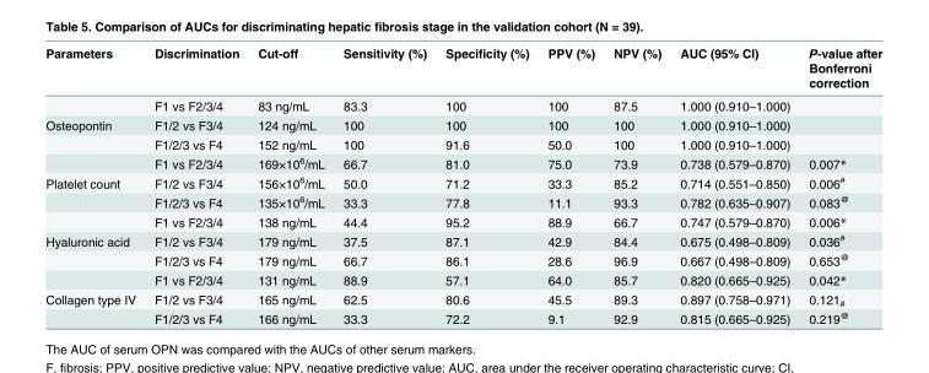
<table><thead><tr><td>Parameters</td><td>Discrimination</td><td>Cut-off</td><td>Sensitivity (%)</td><td>Specificity (%)</td><td>PPV (%)</td><td>NPV (%)</td><td>AUC (95% CI)</td><td>P-value after Bonferroni correction</td></tr></thead><tbody><tr><td></td><td>F1 vs F2/3/4</td><td>83 ng/mL</td><td>83.3</td><td>100</td><td>100</td><td>87.5</td><td>1.000 (0.910–1.000)</td><td></td></tr><tr><td rowspan="3">Osteopontin</td><td>F1/2 vs F3/4</td><td>124 ng/mL</td><td>100</td><td>100</td><td>100</td><td>100</td><td>1.000 (0.910–1.000)</td><td></td></tr><tr><td>F1/2/3 vs F4</td><td>152 ng/mL</td><td>100</td><td>91.6</td><td>50.0</td><td>100</td><td>1.000 (0.910–1.000)</td><td></td></tr><tr><td>F1 vs F2/3/4</td><td>169×10<sup>6</sup>/mL</td><td>66.7</td><td>81.0</td><td>75.0</td><td>73.9</td><td>0.738 (0.579–0.870)</td><td>0.007*</td></tr><tr><td rowspan="3">Platelet count</td><td>F1/2 vs F3/4</td><td>156×10<sup>6</sup>/mL</td><td>50.0</td><td>71.2</td><td>33.3</td><td>85.2</td><td>0.714 (0.551–0.850)</td><td>0.006<sup>#</sup></td></tr><tr><td>F1/2/3 vs F4</td><td>135×10<sup>6</sup>/mL</td><td>33.3</td><td>77.8</td><td>11.1</td><td>93.3</td><td>0.782 (0.635–0.907)</td><td>0.083<sup>@</sup></td></tr><tr><td>F1 vs F2/3/4</td><td>138 ng/mL</td><td>44.4</td><td>95.2</td><td>88.9</td><td>66.7</td><td>0.747 (0.579–0.870)</td><td>0.006*</td></tr><tr><td rowspan="3">Hyaluronic acid</td><td>F1/2 vs F3/4</td><td>179 ng/mL</td><td>37.5</td><td>87.1</td><td>42.9</td><td>84.4</td><td>0.675 (0.498–0.809)</td><td>0.036<sup>#</sup></td></tr><tr><td>F1/2/3 vs F4</td><td>179 ng/mL</td><td>66.7</td><td>86.1</td><td>28.6</td><td>96.9</td><td>0.667 (0.498–0.809)</td><td>0.653<sup>@</sup></td></tr><tr><td>F1 vs F2/3/4</td><td>131 ng/mL</td><td>88.9</td><td>57.1</td><td>64.0</td><td>85.7</td><td>0.820 (0.665–0.925)</td><td>0.042*</td></tr><tr><td rowspan="2">Collagen type IV</td><td>F1/2 vs F3/4</td><td>165 ng/mL</td><td>62.5</td><td>80.6</td><td>45.5</td><td>89.3</td><td>0.897 (0.758–0.971)</td><td>0.121<sub>#</sub></td></tr><tr><td>F1/2/3 vs F4</td><td>166 ng/mL</td><td>33.3</td><td>72.2</td><td>9.1</td><td>92.9</td><td>0.815 (0.665–0.925)</td><td>0.219<sup>@</sup></td></tr></tbody></table>